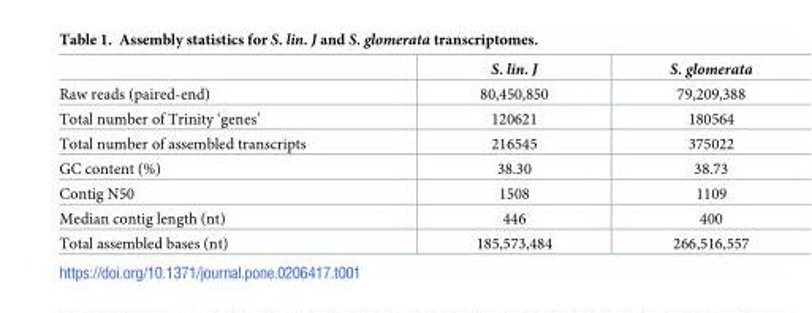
<table><thead><tr><td></td><td>S. lin. J</td><td>S. glomerata</td></tr></thead><tbody><tr><td>Raw reads (paired-end)</td><td>80,450,850</td><td>79,209,388</td></tr><tr><td>Total number of Trinity ‘genes’</td><td>120621</td><td>180564</td></tr><tr><td>Total number of assembled transcripts</td><td>216545</td><td>375022</td></tr><tr><td>GC content (%)</td><td>38.30</td><td>38.73</td></tr><tr><td>Contig N50</td><td>1508</td><td>1109</td></tr><tr><td>Median contig length (nt)</td><td>446</td><td>400</td></tr><tr><td>Total assembled bases (nt)</td><td>185,573,484</td><td>266,516,557</td></tr></tbody></table>